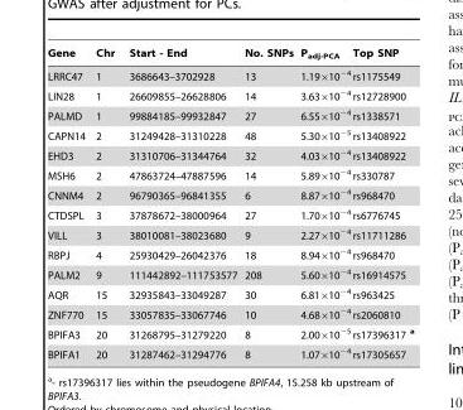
<table><thead><tr><td>Gene</td><td>Chr</td><td>Start - End</td><td>No. SNPs</td><td>P<sub>adj-PCA</sub></td><td>Top SNP</td></tr></thead><tbody><tr><td>LRRC47</td><td>1</td><td>3686643–3702928</td><td>13</td><td>1.19×10<sup>−4</sup></td><td>rs1175549</td></tr><tr><td>LIN28</td><td>1</td><td>26609855–26628806</td><td>14</td><td>3.63×10<sup>−4</sup></td><td>rs12728900</td></tr><tr><td>PALMD</td><td>1</td><td>99884185–99932847</td><td>27</td><td>6.55×10<sup>−4</sup></td><td>rs1338571</td></tr><tr><td>CAPN14</td><td>2</td><td>31249428–31310228</td><td>48</td><td>5.30×10<sup>−5</sup></td><td>rs13408922</td></tr><tr><td>EHD3</td><td>2</td><td>31310706–31344764</td><td>32</td><td>4.03×10<sup>−4</sup></td><td>rs13408922</td></tr><tr><td>MSH6</td><td>2</td><td>47863724–47887596</td><td>14</td><td>5.89×10<sup>−4</sup></td><td>rs330787</td></tr><tr><td>CNNM4</td><td>2</td><td>96790365–96841355</td><td>6</td><td>8.87×10<sup>−4</sup></td><td>rs968470</td></tr><tr><td>CTDSPL</td><td>3</td><td>37878672–38000964</td><td>27</td><td>1.70×10<sup>−4</sup></td><td>rs6776745</td></tr><tr><td>VILL</td><td>3</td><td>38010081–38023680</td><td>9</td><td>2.27×10<sup>−4</sup></td><td>rs11711286</td></tr><tr><td>RBPJ</td><td>4</td><td>25930429–26042376</td><td>18</td><td>8.94×10<sup>−4</sup></td><td>rs968470</td></tr><tr><td>PALM2</td><td>9</td><td>111442892–111753577</td><td>208</td><td>5.60×10<sup>−4</sup></td><td>rs16914575</td></tr><tr><td>AQR</td><td>15</td><td>32935843–33049287</td><td>30</td><td>6.81×10<sup>−4</sup></td><td>rs963425</td></tr><tr><td>ZNF770</td><td>15</td><td>33057835–33067746</td><td>10</td><td>4.68×10<sup>−4</sup></td><td>rs2060810</td></tr><tr><td>BPIFA3</td><td>20</td><td>31268795–31279220</td><td>8</td><td>2.00×10<sup>−5</sup></td><td>rs17396317 a</td></tr><tr><td>BPIFA1</td><td>20</td><td>31287462–31294776</td><td>8</td><td>1.07×10<sup>−4</sup></td><td>rs17305657</td></tr></tbody></table>